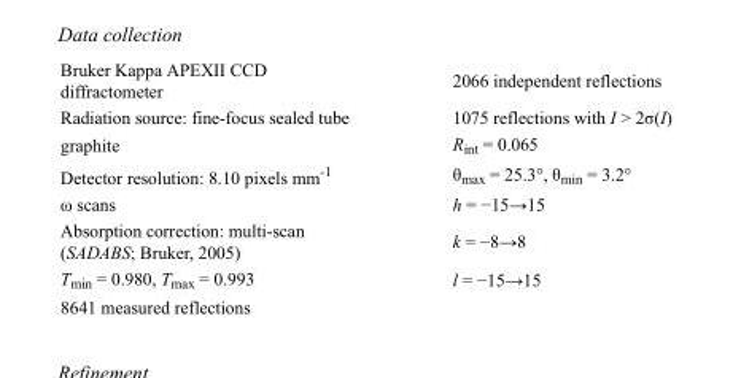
<table><tbody><tr><td>Bruker Kappa APEXII CCD diffractometer</td><td>2066 independent reflections</td></tr><tr><td>Radiation source: fine-focus sealed tube</td><td>1075 reflections with I &gt; 2σ(I)</td></tr><tr><td>graphite</td><td>R<sub>int</sub> = 0.065</td></tr><tr><td>Detector resolution: 8.10 pixels mm<sup>-1</sup></td><td>θ<sub>max</sub> = 25.3°, θ<sub>min</sub> = 3.2°</td></tr><tr><td>ω scans</td><td>h = −15→15</td></tr><tr><td>Absorption correction: multi-scan (SADABS; Bruker, 2005)</td><td>k = −8→8</td></tr><tr><td>T<sub>min</sub> = 0.980, T<sub>max</sub> = 0.993</td><td>l = −15→15</td></tr><tr><td>8641 measured reflections</td><td></td></tr></tbody></table>